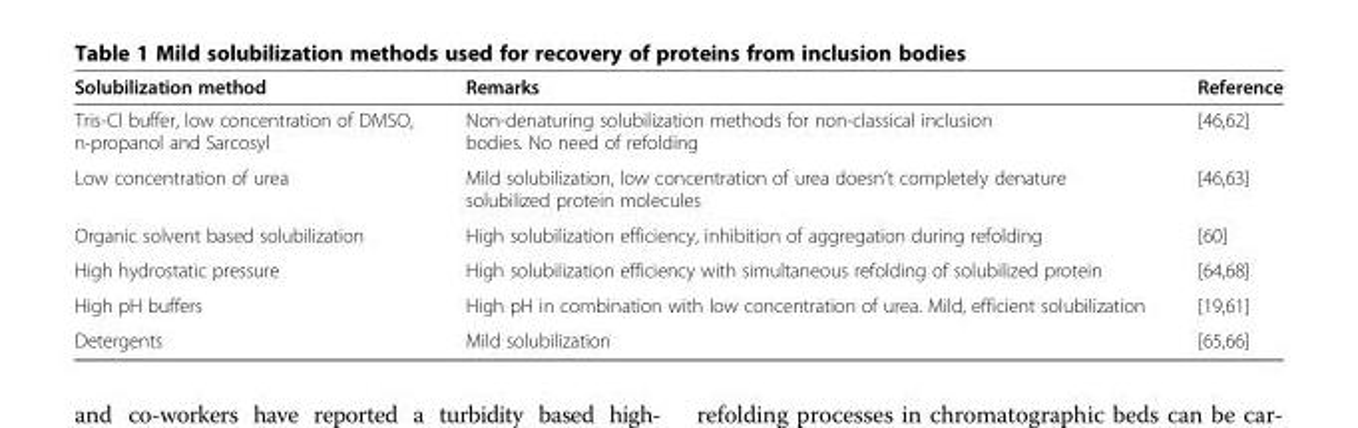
<table><thead><tr><td>Solubilization method</td><td>Remarks</td><td>Reference</td></tr></thead><tbody><tr><td>Tris-Cl buffer, low concentration of DMSO, n-propanol and Sarcosyl</td><td>Non-denaturing solubilization methods for non-classical inclusion bodies. No need of refolding</td><td>[46,62]</td></tr><tr><td>Low concentration of urea</td><td>Mild solubilization, low concentration of urea doesn’t completely denature solubilized protein molecules</td><td>[46,63]</td></tr><tr><td>Organic solvent based solubilization</td><td>High solubilization efficiency, inhibition of aggregation during refolding</td><td>[60]</td></tr><tr><td>High hydrostatic pressure</td><td>High solubilization efficiency with simultaneous refolding of solubilized protein</td><td>[64,68]</td></tr><tr><td>High pH buffers</td><td>High pH in combination with low concentration of urea. Mild, efficient solubilization</td><td>[19,61]</td></tr><tr><td>Detergents</td><td>Mild solubilization</td><td>[65,66]</td></tr></tbody></table>